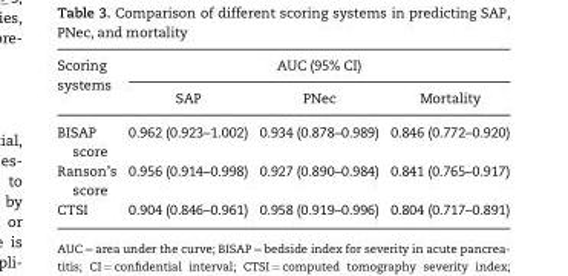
<table><thead><tr><td rowspan="2">Scoring systems</td><td colspan="3">AUC (95% CI)</td></tr><tr><td>SAP</td><td>PNec</td><td>Mortality</td></tr></thead><tbody><tr><td>BISAP score</td><td>0.962 (0.923–1.002)</td><td>0.934 (0.878–0.989)</td><td>0.846 (0.772–0.920)</td></tr><tr><td>Ranson’s score</td><td>0.956 (0.914–0.998)</td><td>0.927 (0.890–0.984)</td><td>0.841 (0.765–0.917)</td></tr><tr><td>CTSI</td><td>0.904 (0.846–0.961)</td><td>0.958 (0.919–0.996)</td><td>0.804 (0.717–0.891)</td></tr></tbody></table>